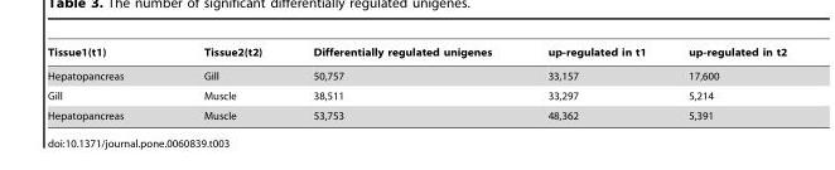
<table><thead><tr><td>Tissue1(t1)</td><td>Tissue2(t2)</td><td>Differentially regulated unigenes</td><td>up-regulated in t1</td><td>up-regulated in t2</td></tr></thead><tbody><tr><td>Hepatopancreas</td><td>Gill</td><td>50,757</td><td>33,157</td><td>17,600</td></tr><tr><td>Gill</td><td>Muscle</td><td>38,511</td><td>33,297</td><td>5,214</td></tr><tr><td>Hepatopancreas</td><td>Muscle</td><td>53,753</td><td>48,362</td><td>5,391</td></tr></tbody></table>